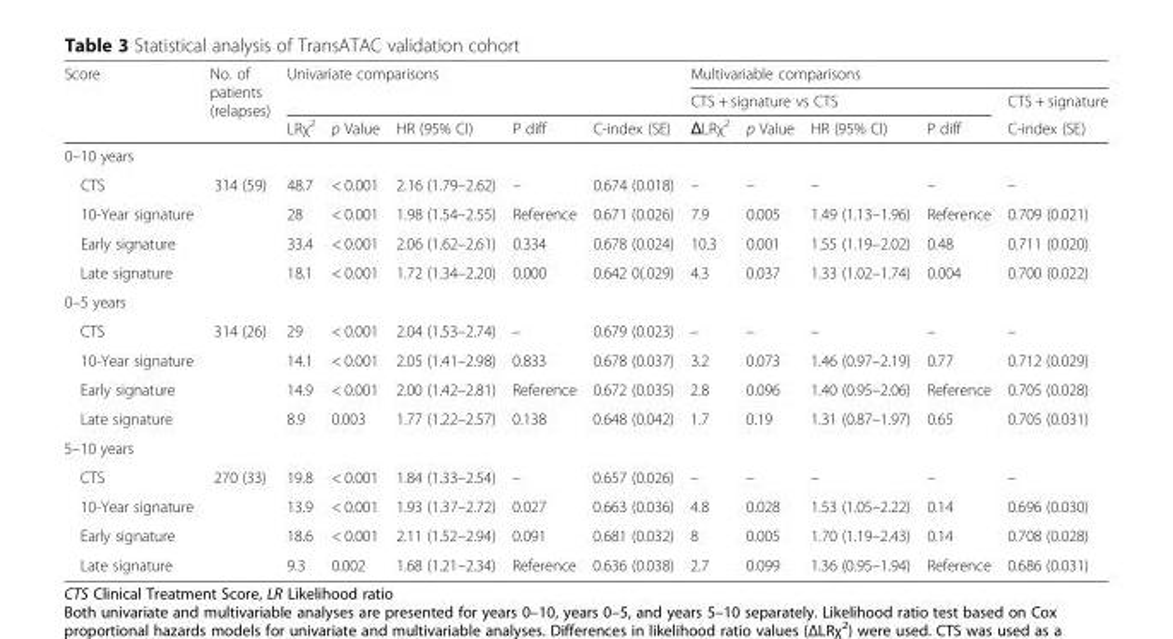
<table><thead><tr><td rowspan="3">Score</td><td rowspan="3">No. of patients (relapses)</td><td rowspan="2" colspan="5">Univariate comparisons</td><td colspan="5">Multivariable comparisons</td></tr><tr><td colspan="4">CTS + signature vs CTS</td><td rowspan="2">CTS + signature C-index (SE)</td></tr><tr><td>LRχ<sup>2</sup></td><td>p Value</td><td>HR (95% CI)</td><td>P diff</td><td>C-index (SE)</td><td>ΔLRχ<sup>2</sup></td><td>p Value</td><td>HR (95% CI)</td><td>P diff</td></tr></thead><tbody><tr><td colspan="12">0–10 years</td></tr><tr><td>CTS</td><td rowspan="4">314 (59)</td><td>48.7</td><td>&lt; 0.001</td><td>2.16 (1.79–2.62)</td><td>–</td><td>0.674 (0.018)</td><td>–</td><td>–</td><td>–</td><td>–</td><td>–</td></tr><tr><td>10-Year signature</td><td>28</td><td>&lt; 0.001</td><td>1.98 (1.54–2.55)</td><td>Reference</td><td>0.671 (0.026)</td><td>7.9</td><td>0.005</td><td>1.49 (1.13–1.96)</td><td>Reference</td><td>0.709 (0.021)</td></tr><tr><td>Early signature</td><td>33.4</td><td>&lt; 0.001</td><td>2.06 (1.62–2.61)</td><td>0.334</td><td>0.678 (0.024)</td><td>10.3</td><td>0.001</td><td>1.55 (1.19–2.02)</td><td>0.48</td><td>0.711 (0.020)</td></tr><tr><td>Late signature</td><td>18.1</td><td>&lt; 0.001</td><td>1.72 (1.34–2.20)</td><td>0.000</td><td>0.642 0(.029)</td><td>4.3</td><td>0.037</td><td>1.33 (1.02–1.74)</td><td>0.004</td><td>0.700 (0.022)</td></tr><tr><td colspan="12">0–5 years</td></tr><tr><td>CTS</td><td rowspan="4">314 (26)</td><td>29</td><td>&lt; 0.001</td><td>2.04 (1.53–2.74)</td><td>–</td><td>0.679 (0.023)</td><td>–</td><td>–</td><td>–</td><td>–</td><td>–</td></tr><tr><td>10-Year signature</td><td>14.1</td><td>&lt; 0.001</td><td>2.05 (1.41–2.98)</td><td>0.833</td><td>0.678 (0.037)</td><td>3.2</td><td>0.073</td><td>1.46 (0.97–2.19)</td><td>0.77</td><td>0.712 (0.029)</td></tr><tr><td>Early signature</td><td>14.9</td><td>&lt; 0.001</td><td>2.00 (1.42–2.81)</td><td>Reference</td><td>0.672 (0.035)</td><td>2.8</td><td>0.096</td><td>1.40 (0.95–2.06)</td><td>Reference</td><td>0.705 (0.028)</td></tr><tr><td>Late signature</td><td>8.9</td><td>0.003</td><td>1.77 (1.22–2.57)</td><td>0.138</td><td>0.648 (0.042)</td><td>1.7</td><td>0.19</td><td>1.31 (0.87–1.97)</td><td>0.65</td><td>0.705 (0.031)</td></tr><tr><td colspan="12">5–10 years</td></tr><tr><td>CTS</td><td rowspan="4">270 (33)</td><td>19.8</td><td>&lt; 0.001</td><td>1.84 (1.33–2.54)</td><td>–</td><td>0.657 (0.026)</td><td>–</td><td>–</td><td>–</td><td>–</td><td>–</td></tr><tr><td>10-Year signature</td><td>13.9</td><td>&lt; 0.001</td><td>1.93 (1.37–2.72)</td><td>0.027</td><td>0.663 (0.036)</td><td>4.8</td><td>0.028</td><td>1.53 (1.05–2.22)</td><td>0.14</td><td>0.696 (0.030)</td></tr><tr><td>Early signature</td><td>18.6</td><td>&lt; 0.001</td><td>2.11 (1.52–2.94)</td><td>0.091</td><td>0.681 (0.032)</td><td>8</td><td>0.005</td><td>1.70 (1.19–2.43)</td><td>0.14</td><td>0.708 (0.028)</td></tr><tr><td>Late signature</td><td>9.3</td><td>0.002</td><td>1.68 (1.21–2.34)</td><td>Reference</td><td>0.636 (0.038)</td><td>2.7</td><td>0.099</td><td>1.36 (0.95–1.94)</td><td>Reference</td><td>0.686 (0.031)</td></tr></tbody></table>